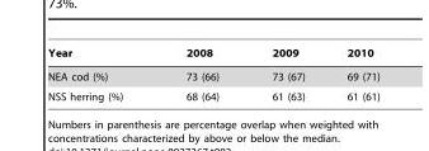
<table><thead><tr><td>Year</td><td>2008</td><td>2009</td><td>2010</td></tr></thead><tbody><tr><td>NEA cod (%)</td><td>73 (66)</td><td>73 (67)</td><td>69 (71)</td></tr><tr><td>NSS herring (%)</td><td>68 (64)</td><td>61 (63)</td><td>61 (61)</td></tr></tbody></table>